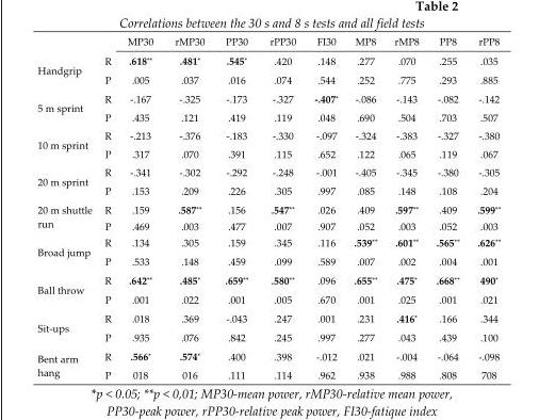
<table><thead><tr><td></td><td></td><td>MP30</td><td>rMP30</td><td>PP30</td><td>rPP30</td><td>FI30</td><td>MP8</td><td>rMP8</td><td>PP8</td><td>rPP8</td></tr></thead><tbody><tr><td rowspan="2">Handgrip</td><td>R</td><td>.618**</td><td>.481*</td><td>.545*</td><td>.420</td><td>.148</td><td>.277</td><td>.070</td><td>.255</td><td>.035</td></tr><tr><td>P</td><td>.005</td><td>.037</td><td>.016</td><td>.074</td><td>.544</td><td>.252</td><td>.775</td><td>.293</td><td>.885</td></tr><tr><td rowspan="2">5 m sprint</td><td>R</td><td>-.167</td><td>-.325</td><td>-.173</td><td>-.327</td><td>-.407*</td><td>-.086</td><td>-.143</td><td>-.082</td><td>-.142</td></tr><tr><td>P</td><td>.435</td><td>.121</td><td>.419</td><td>.119</td><td>.048</td><td>.690</td><td>.504</td><td>.703</td><td>.507</td></tr><tr><td rowspan="2">10 m sprint</td><td>R</td><td>-.213</td><td>-.376</td><td>-.183</td><td>-.330</td><td>-.097</td><td>-.324</td><td>-.383</td><td>-.327</td><td>-.380</td></tr><tr><td>P</td><td>.317</td><td>.070</td><td>.391</td><td>.115</td><td>.652</td><td>.122</td><td>.065</td><td>.119</td><td>.067</td></tr><tr><td rowspan="2">20 m sprint</td><td>R</td><td>-.341</td><td>-.302</td><td>-.292</td><td>-.248</td><td>-.001</td><td>-.405</td><td>-.345</td><td>-.380</td><td>-.305</td></tr><tr><td>P</td><td>.153</td><td>.209</td><td>.226</td><td>.305</td><td>.997</td><td>.085</td><td>.148</td><td>.108</td><td>.204</td></tr><tr><td rowspan="2">20 m shuttle run</td><td>R</td><td>.159</td><td>.587**</td><td>.156</td><td>.547**</td><td>.026</td><td>.409</td><td>.597**</td><td>.409</td><td>.599**</td></tr><tr><td>P</td><td>.469</td><td>.003</td><td>.477</td><td>.007</td><td>.907</td><td>.052</td><td>.003</td><td>.052</td><td>.003</td></tr><tr><td rowspan="2">Broad jump</td><td>R</td><td>.134</td><td>.305</td><td>.159</td><td>.345</td><td>.116</td><td>.539**</td><td>.601**</td><td>.565**</td><td>.626**</td></tr><tr><td>P</td><td>.533</td><td>.148</td><td>.459</td><td>.099</td><td>.589</td><td>.007</td><td>.002</td><td>.004</td><td>.001</td></tr><tr><td rowspan="2">Ball throw</td><td>R</td><td>.642**</td><td>.485*</td><td>.659**</td><td>.580**</td><td>.096</td><td>.655**</td><td>.475*</td><td>.668**</td><td>490*</td></tr><tr><td>P</td><td>.001</td><td>.022</td><td>.001</td><td>.005</td><td>.670</td><td>.001</td><td>.025</td><td>.001</td><td>.021</td></tr><tr><td rowspan="2">Sit-ups</td><td>R</td><td>.018</td><td>.369</td><td>-.043</td><td>.247</td><td>.001</td><td>.231</td><td>.416*</td><td>.166</td><td>.344</td></tr><tr><td>P</td><td>.935</td><td>.076</td><td>.842</td><td>.245</td><td>.997</td><td>.277</td><td>.043</td><td>.439</td><td>.100</td></tr><tr><td rowspan="2">Bent arm hang</td><td>R</td><td>.566*</td><td>.574*</td><td>.400</td><td>.398</td><td>-.012</td><td>.021</td><td>-.004</td><td>-.064</td><td>-.098</td></tr><tr><td>P</td><td>018</td><td>016</td><td>.111</td><td>.114</td><td>.962</td><td>.938</td><td>.988</td><td>.808</td><td>708</td></tr></tbody></table>